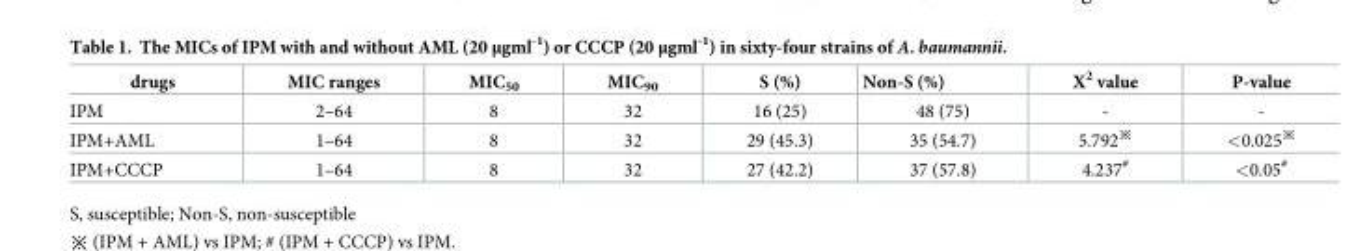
<table><thead><tr><td>drugs</td><td>MIC ranges</td><td>MIC<sub>50</sub></td><td>MIC<sub>90</sub></td><td>S (%)</td><td>Non-S (%)</td><td>X<sup>2</sup> value</td><td>P-value</td></tr></thead><tbody><tr><td>IPM</td><td>2–64</td><td>8</td><td>32</td><td>16 (25)</td><td>48 (75)</td><td>-</td><td>-</td></tr><tr><td>IPM+AML</td><td>1–64</td><td>8</td><td>32</td><td>29 (45.3)</td><td>35 (54.7)</td><td>5.792<sup>※</sup></td><td>&lt;0.025<sup>※</sup></td></tr><tr><td>IPM+CCCP</td><td>1–64</td><td>8</td><td>32</td><td>27 (42.2)</td><td>37 (57.8)</td><td>4.237<sup>#</sup></td><td>&lt;0.05<sup>#</sup></td></tr></tbody></table>